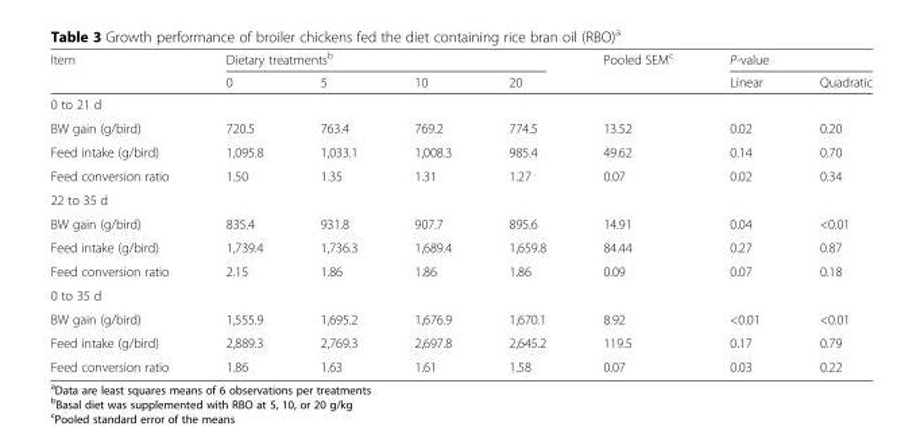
<table><thead><tr><td rowspan="2">Item</td><td colspan="4">Dietary treatments<sup>b</sup></td><td rowspan="2">Pooled SEM<sup>c</sup></td><td colspan="2">P-value</td></tr><tr><td>0</td><td>5</td><td>10</td><td>20</td><td>Linear</td><td>Quadratic</td></tr></thead><tbody><tr><td colspan="8">0 to 21 d</td></tr><tr><td>BW gain (g/bird)</td><td>720.5</td><td>763.4</td><td>769.2</td><td>774.5</td><td>13.52</td><td>0.02</td><td>0.20</td></tr><tr><td>Feed intake (g/bird)</td><td>1,095.8</td><td>1,033.1</td><td>1,008.3</td><td>985.4</td><td>49.62</td><td>0.14</td><td>0.70</td></tr><tr><td>Feed conversion ratio</td><td>1.50</td><td>1.35</td><td>1.31</td><td>1.27</td><td>0.07</td><td>0.02</td><td>0.34</td></tr><tr><td colspan="8">22 to 35 d</td></tr><tr><td>BW gain (g/bird)</td><td>835.4</td><td>931.8</td><td>907.7</td><td>895.6</td><td>14.91</td><td>0.04</td><td>&lt;0.01</td></tr><tr><td>Feed intake (g/bird)</td><td>1,739.4</td><td>1,736.3</td><td>1,689.4</td><td>1,659.8</td><td>84.44</td><td>0.27</td><td>0.87</td></tr><tr><td>Feed conversion ratio</td><td>2.15</td><td>1.86</td><td>1.86</td><td>1.86</td><td>0.09</td><td>0.07</td><td>0.18</td></tr><tr><td colspan="8">0 to 35 d</td></tr><tr><td>BW gain (g/bird)</td><td>1,555.9</td><td>1,695.2</td><td>1,676.9</td><td>1,670.1</td><td>8.92</td><td>&lt;0.01</td><td>&lt;0.01</td></tr><tr><td>Feed intake (g/bird)</td><td>2,889.3</td><td>2,769.3</td><td>2,697.8</td><td>2,645.2</td><td>119.5</td><td>0.17</td><td>0.79</td></tr><tr><td>Feed conversion ratio</td><td>1.86</td><td>1.63</td><td>1.61</td><td>1.58</td><td>0.07</td><td>0.03</td><td>0.22</td></tr></tbody></table>